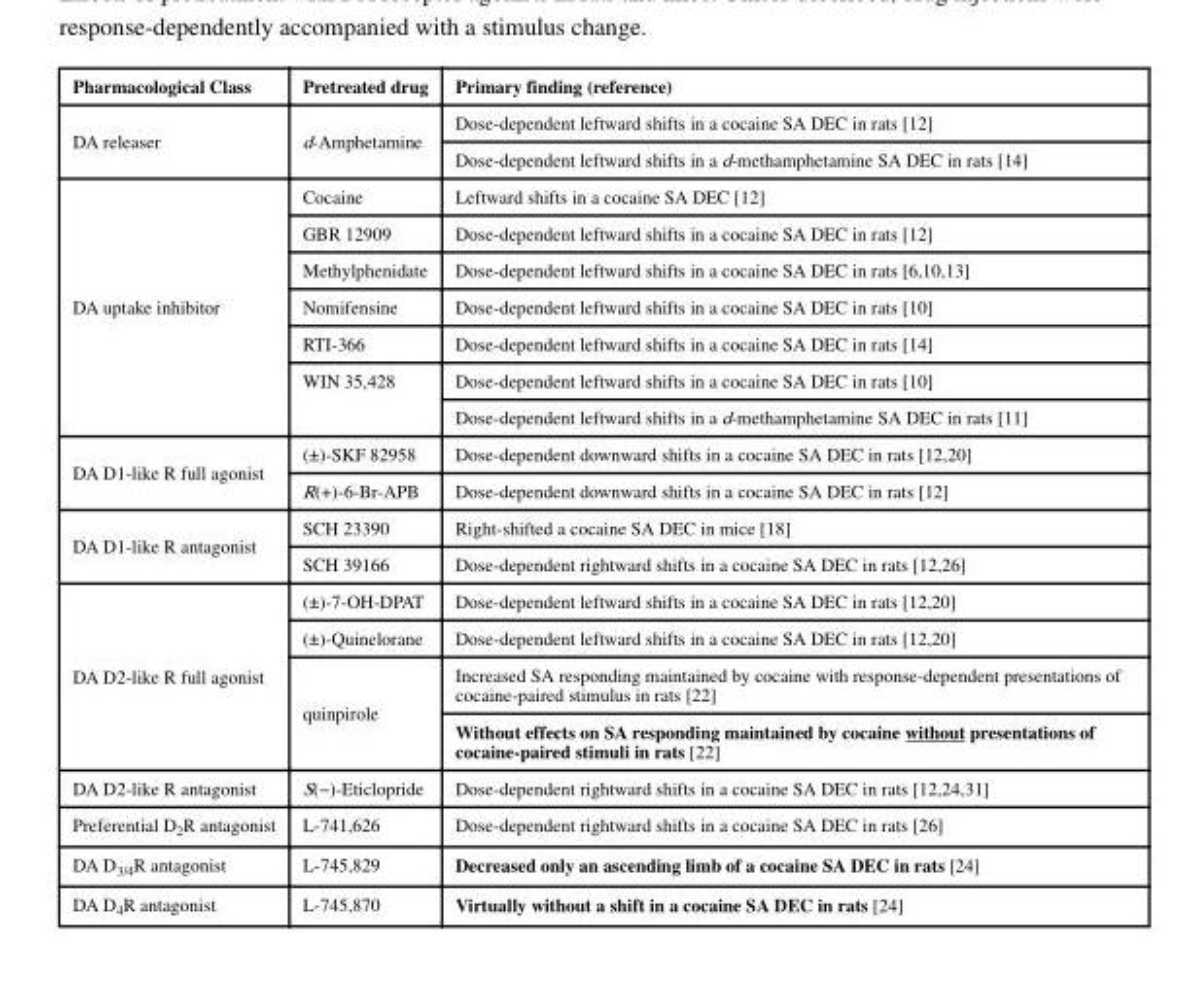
<table><thead><tr><td>Pharmacological Class</td><td>Pretreated drug</td><td>Primary finding (reference)</td></tr></thead><tbody><tr><td rowspan="2">DA releaser</td><td rowspan="2">d-Amphetamine</td><td>Dose-dependent leftward shifts in a cocaine SA DEC in rats [12]</td></tr><tr><td>Dose-dependent leftward shifts in a d-methamphetamine SA DEC in rats [14]</td></tr><tr><td rowspan="7">DA uptake inhibitor</td><td>Cocaine</td><td>Leftward shifts in a cocaine SA DEC [12]</td></tr><tr><td>GBR 12909</td><td>Dose-dependent leftward shifts in a cocaine SA DEC in rats [12]</td></tr><tr><td>Methylphenidate</td><td>Dose-dependent leftward shifts in a cocaine SA DEC in rats [6,10,13]</td></tr><tr><td>Nomifensine</td><td>Dose-dependent leftward shifts in a cocaine SA DEC in rats [10]</td></tr><tr><td>RTI-366</td><td>Dose-dependent leftward shifts in a cocaine SA DEC in rats [14]</td></tr><tr><td rowspan="2">WIN 35,428</td><td>Dose-dependent leftward shifts in a cocaine SA DEC in rats [10]</td></tr><tr><td>Dose-dependent leftward shifts in a d-methamphetamine SA DEC in rats [11]</td></tr><tr><td rowspan="2">DA D1-like R full agonist</td><td>(±)-SKF 82958</td><td>Dose-dependent downward shifts in a cocaine SA DEC in rats [12,20]</td></tr><tr><td>R(+)-6-Br-APB</td><td>Dose-dependent downward shifts in a cocaine SA DEC in rats [12]</td></tr><tr><td rowspan="2">DA D1-like R antagonist</td><td>SCH 23390</td><td>Right-shifted a cocaine SA DEC in mice [18]</td></tr><tr><td>SCH 39166</td><td>Dose-dependent rightward shifts in a cocaine SA DEC in rats [12,26]</td></tr><tr><td rowspan="4">DA D2-like R full agonist</td><td>(±)-7-OH-DPAT</td><td>Dose-dependent leftward shifts in a cocaine SA DEC in rats [12,20]</td></tr><tr><td>(±)-Quinelorane</td><td>Dose-dependent leftward shifts in a cocaine SA DEC in rats [12,20]</td></tr><tr><td rowspan="2">quinpirole</td><td>Increased SA responding maintained by cocaine with response-dependent presentations of cocaine-paired stimulus in rats [22]</td></tr><tr><td>Without effects on SA responding maintained by cocaine without presentations of cocaine-paired stimuli in rats [22]</td></tr><tr><td>DA D2-like R antagonist</td><td>S(−)-Eticlopride</td><td>Dose-dependent rightward shifts in a cocaine SA DEC in rats [12,24,31]</td></tr><tr><td>Preferential D<sub>2</sub>R antagonist</td><td>L-741,626</td><td>Dose-dependent rightward shifts in a cocaine SA DEC in rats [26]</td></tr><tr><td>DA D<sub>3/4</sub>R antagonist</td><td>L-745,829</td><td>Decreased only an ascending limb of a cocaine SA DEC in rats [24]</td></tr><tr><td>DA D<sub>4</sub>R antagonist</td><td>L-745,870</td><td>Virtually without a shift in a cocaine SA DEC in rats [24]</td></tr></tbody></table>